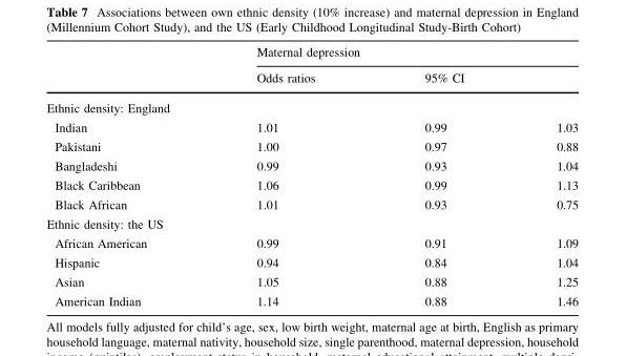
<table><thead><tr><td rowspan="2"></td><td colspan="3">Maternal depression</td></tr><tr><td>Odds ratios</td><td colspan="2">95% CI</td></tr><tr><td colspan="4">Ethnic density: England</td></tr><tr><td>Indian</td><td>1.01</td><td>0.99</td><td>1.03</td></tr></thead><tbody><tr><td>Pakistani</td><td>1.00</td><td>0.97</td><td>0.88</td></tr><tr><td>Bangladeshi</td><td>0.99</td><td>0.93</td><td>1.04</td></tr><tr><td>Black Caribbean</td><td>1.06</td><td>0.99</td><td>1.13</td></tr><tr><td>Black African</td><td>1.01</td><td>0.93</td><td>0.75</td></tr><tr><td colspan="4">Ethnic density: the US</td></tr><tr><td>African American</td><td>0.99</td><td>0.91</td><td>1.09</td></tr><tr><td>Hispanic</td><td>0.94</td><td>0.84</td><td>1.04</td></tr><tr><td>Asian</td><td>1.05</td><td>0.88</td><td>1.25</td></tr><tr><td>American Indian</td><td>1.14</td><td>0.88</td><td>1.46</td></tr></tbody></table>